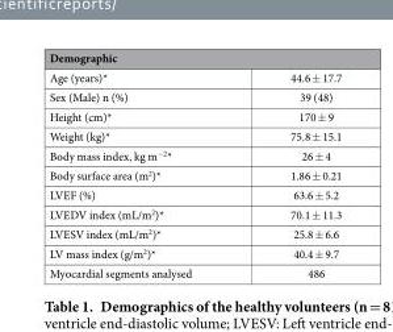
<table><thead><tr><td colspan="2">Demographic</td></tr><tr><td>Age (years)*</td><td>44.6 ± 17.7</td></tr></thead><tbody><tr><td>Sex (Male) n (%)</td><td>39 (48)</td></tr><tr><td>Height (cm)*</td><td>170 ± 9</td></tr><tr><td>Weight (kg)*</td><td>75.8 ± 15.1</td></tr><tr><td>Body mass index, kg m<sup>−2</sup>*</td><td>26 ± 4</td></tr><tr><td>Body surface area (m<sup>2</sup>)*</td><td>1.86 ± 0.21</td></tr><tr><td>LVEF (%)</td><td>63.6 ± 5.2</td></tr><tr><td>LVEDV index (mL/m<sup>2</sup>)*</td><td>70.1 ± 11.3</td></tr><tr><td>LVESV index (mL/m<sup>2</sup>)*</td><td>25.8 ± 6.6</td></tr><tr><td>LV mass index (g/m<sup>2</sup>)*</td><td>40.4 ± 9.7</td></tr><tr><td>Myocardial segments analysed</td><td>486</td></tr></tbody></table>